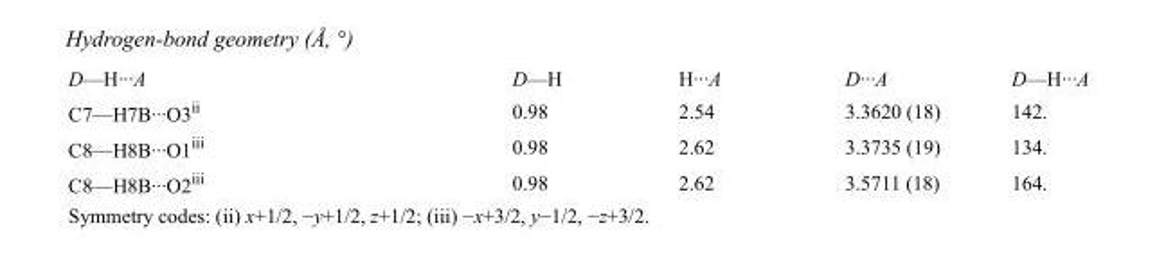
<table><tbody><tr><td>D—H···A</td><td>D—H</td><td>H···A</td><td>D···A</td><td>D—H···A</td></tr><tr><td>C7—H7B···O3<sup>ii</sup></td><td>0.98</td><td>2.54</td><td>3.3620 (18)</td><td>142.</td></tr><tr><td>C8—H8B···O1<sup>iii</sup></td><td>0.98</td><td>2.62</td><td>3.3735 (19)</td><td>134.</td></tr><tr><td>C8—H8B···O2<sup>iii</sup></td><td>0.98</td><td>2.62</td><td>3.5711 (18)</td><td>164.</td></tr></tbody></table>